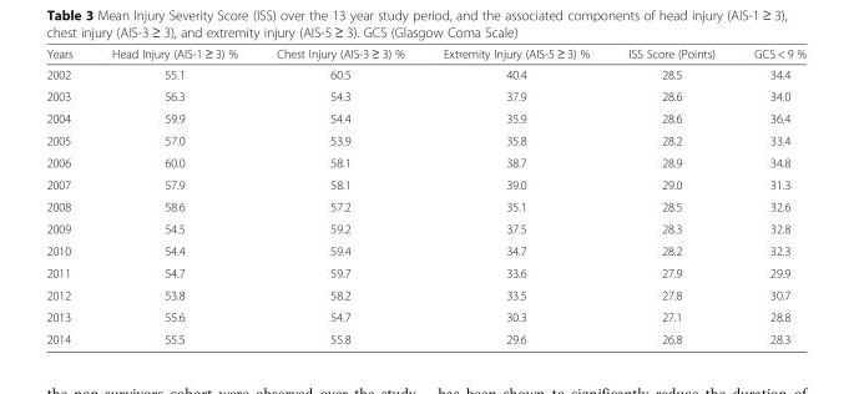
<table><thead><tr><td>Years</td><td>Head Injury (AIS-1 ≥ 3) %</td><td>Chest Injury (AIS-3 ≥ 3) %</td><td>Extremity Injury (AIS-5 ≥ 3) %</td><td>ISS Score (Points)</td><td>GCS &lt; 9 %</td></tr></thead><tbody><tr><td>2002</td><td>55.1</td><td>60.5</td><td>40.4</td><td>28.5</td><td>34.4</td></tr><tr><td>2003</td><td>56.3</td><td>54.3</td><td>37.9</td><td>28.6</td><td>34.0</td></tr><tr><td>2004</td><td>59.9</td><td>54.4</td><td>35.9</td><td>28.6</td><td>36.4</td></tr><tr><td>2005</td><td>57.0</td><td>53.9</td><td>35.8</td><td>28.2</td><td>33.4</td></tr><tr><td>2006</td><td>60.0</td><td>58.1</td><td>38.7</td><td>28.9</td><td>34.8</td></tr><tr><td>2007</td><td>57.9</td><td>58.1</td><td>39.0</td><td>29.0</td><td>31.3</td></tr><tr><td>2008</td><td>58.6</td><td>57.2</td><td>35.1</td><td>28.5</td><td>32.6</td></tr><tr><td>2009</td><td>54.5</td><td>59.2</td><td>37.5</td><td>28.3</td><td>32.8</td></tr><tr><td>2010</td><td>54.4</td><td>59.4</td><td>34.7</td><td>28.2</td><td>32.3</td></tr><tr><td>2011</td><td>54.7</td><td>59.7</td><td>33.6</td><td>27.9</td><td>29.9</td></tr><tr><td>2012</td><td>53.8</td><td>58.2</td><td>33.5</td><td>27.8</td><td>30.7</td></tr><tr><td>2013</td><td>55.6</td><td>54.7</td><td>30.3</td><td>27.1</td><td>28.8</td></tr><tr><td>2014</td><td>55.5</td><td>55.8</td><td>29.6</td><td>26.8</td><td>28.3</td></tr></tbody></table>